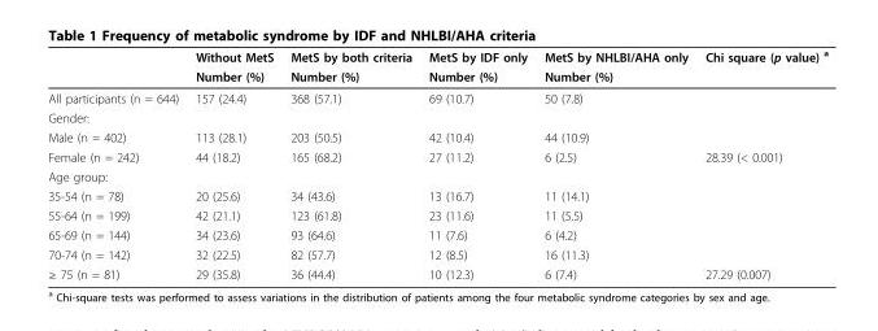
<table><thead><tr><td rowspan="2"></td><td rowspan="2">Without MetS Number (%)</td><td rowspan="2">MetS by both criteria Number (%)</td><td rowspan="2">MetS by IDF only Number (%)</td><td rowspan="2">MetS by NHLBI/AHA only Number (%)</td><td rowspan="2">Chi square (p value) <sup>a</sup></td></tr><tr></tr></thead><tbody><tr><td>All participants (n = 644)</td><td>157 (24.4)</td><td>368 (57.1)</td><td>69 (10.7)</td><td>50 (7.8)</td><td></td></tr><tr><td colspan="6">Gender:</td></tr><tr><td>Male (n = 402)</td><td>113 (28.1)</td><td>203 (50.5)</td><td>42 (10.4)</td><td>44 (10.9)</td><td></td></tr><tr><td>Female (n = 242)</td><td>44 (18.2)</td><td>165 (68.2)</td><td>27 (11.2)</td><td>6 (2.5)</td><td>28.39 (&lt; 0.001)</td></tr><tr><td colspan="6">Age group:</td></tr><tr><td>35-54 (n = 78)</td><td>20 (25.6)</td><td>34 (43.6)</td><td>13 (16.7)</td><td>11 (14.1)</td><td></td></tr><tr><td>55-64 (n = 199)</td><td>42 (21.1)</td><td>123 (61.8)</td><td>23 (11.6)</td><td>11 (5.5)</td><td></td></tr><tr><td>65-69 (n = 144)</td><td>34 (23.6)</td><td>93 (64.6)</td><td>11 (7.6)</td><td>6 (4.2)</td><td></td></tr><tr><td>70-74 (n = 142)</td><td>32 (22.5)</td><td>82 (57.7)</td><td>12 (8.5)</td><td>16 (11.3)</td><td></td></tr><tr><td>≥ 75 (n = 81)</td><td>29 (35.8)</td><td>36 (44.4)</td><td>10 (12.3)</td><td>6 (7.4)</td><td>27.29 (0.007)</td></tr></tbody></table>